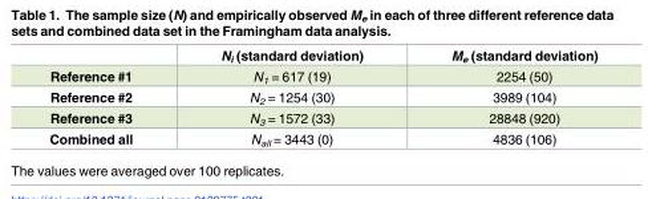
<table><thead><tr><td></td><td>N<sub>i</sub> (standard deviation)</td><td>M<sub>e</sub> (standard deviation)</td></tr></thead><tbody><tr><td>Reference #1</td><td>N<sub>1</sub> = 617 (19)</td><td>2254 (50)</td></tr><tr><td>Reference #2</td><td>N<sub>2</sub> = 1254 (30)</td><td>3989 (104)</td></tr><tr><td>Reference #3</td><td>N<sub>3</sub> = 1572 (33)</td><td>28848 (920)</td></tr><tr><td>Combined all</td><td>N<sub>all</sub> = 3443 (0)</td><td>4836 (106)</td></tr></tbody></table>